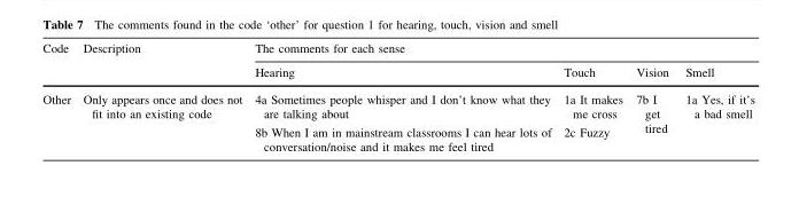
<table><thead><tr><td rowspan="2">Code</td><td rowspan="2">Description</td><td colspan="4">The comments for each sense</td></tr><tr><td>Hearing</td><td>Touch</td><td>Vision</td><td>Smell</td></tr></thead><tbody><tr><td rowspan="2">Other</td><td rowspan="2">Only appears once and does not fit into an existing code</td><td>4a Sometimes people whisper and I don’t know what they are talking about</td><td>1a It makes me cross</td><td rowspan="2">7b I get tired</td><td rowspan="2">1a Yes, if it’s a bad smell</td></tr><tr><td>8b When I am in mainstream classrooms I can hear lots of conversation/noise and it makes me feel tired</td><td>2c Fuzzy</td></tr></tbody></table>